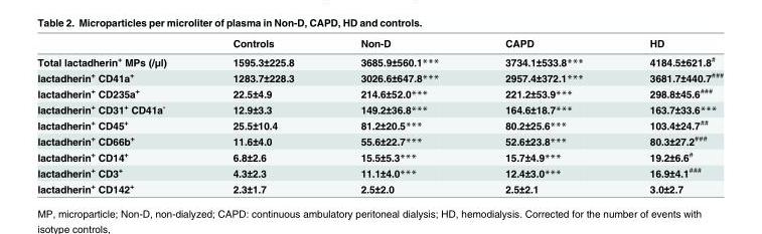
<table><thead><tr><td></td><td>Controls</td><td>Non-D</td><td>CAPD</td><td>HD</td></tr></thead><tbody><tr><td>Total lactadherin<sup>+</sup> MPs (/μl)</td><td>1595.3±225.8</td><td>3685.9±560.1***</td><td>3734.1±533.8***</td><td>4184.5±621.8<sup>#</sup></td></tr><tr><td>lactadherin<sup>+</sup> CD41a<sup>+</sup></td><td>1283.7±228.3</td><td>3026.6±647.8***</td><td>2957.4±372.1***</td><td>3681.7±440.7<sup>###</sup></td></tr><tr><td>lactadherin<sup>+</sup> CD235a<sup>+</sup></td><td>22.5±4.9</td><td>214.6±52.0***</td><td>221.2±53.9***</td><td>298.8±45.6<sup>###</sup></td></tr><tr><td>lactadherin<sup>+</sup> CD31<sup>+</sup> CD41a<sup>-</sup></td><td>12.9±3.3</td><td>149.2±36.8***</td><td>164.6±18.7***</td><td>163.7±33.6***</td></tr><tr><td>lactadherin<sup>+</sup> CD45<sup>+</sup></td><td>25.5±10.4</td><td>81.2±20.5***</td><td>80.2±25.6***</td><td>103.4±24.7<sup>##</sup></td></tr><tr><td>lactadherin<sup>+</sup> CD66b<sup>+</sup></td><td>11.6±4.0</td><td>55.6±22.7***</td><td>52.6±23.8***</td><td>80.3±27.2<sup>###</sup></td></tr><tr><td>lactadherin<sup>+</sup> CD14<sup>+</sup></td><td>6.8±2.6</td><td>15.5±5.3***</td><td>15.7±4.9***</td><td>19.2±6.6<sup>#</sup></td></tr><tr><td>lactadherin<sup>+</sup> CD3<sup>+</sup></td><td>4.3±2.3</td><td>11.1±4.0***</td><td>12.4±3.0***</td><td>16.9±4.1<sup>###</sup></td></tr><tr><td>lactadherin<sup>+</sup> CD142<sup>+</sup></td><td>2.3±1.7</td><td>2.5±2.0</td><td>2.5±2.1</td><td>3.0±2.7</td></tr></tbody></table>